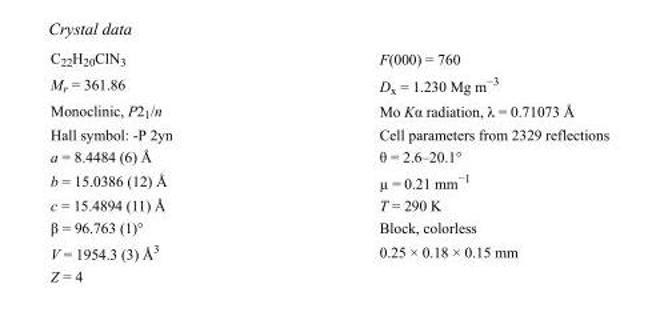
<table><tbody><tr><td>C<sub>22</sub>H<sub>20</sub>ClN<sub>3</sub></td><td>F(000) = 760</td></tr><tr><td>M<sub>r</sub> = 361.86</td><td>D<sub>x</sub> = 1.230 Mg m<sup>−3</sup></td></tr><tr><td>Monoclinic, P2<sub>1</sub>/n</td><td>Mo Kα radiation, λ = 0.71073 Å</td></tr><tr><td>Hall symbol: -P 2yn</td><td>Cell parameters from 2329 reflections</td></tr><tr><td>a = 8.4484 (6) Å</td><td>θ = 2.6–20.1°</td></tr><tr><td>b = 15.0386 (12) Å</td><td>µ = 0.21 mm<sup>−1</sup></td></tr><tr><td>c = 15.4894 (11) Å</td><td>T = 290 K</td></tr><tr><td>β = 96.763 (1)°</td><td>Block, colorless</td></tr><tr><td>V = 1954.3 (3) Å<sup>3</sup></td><td>0.25 × 0.18 × 0.15 mm</td></tr><tr><td>Z = 4</td><td></td></tr></tbody></table>